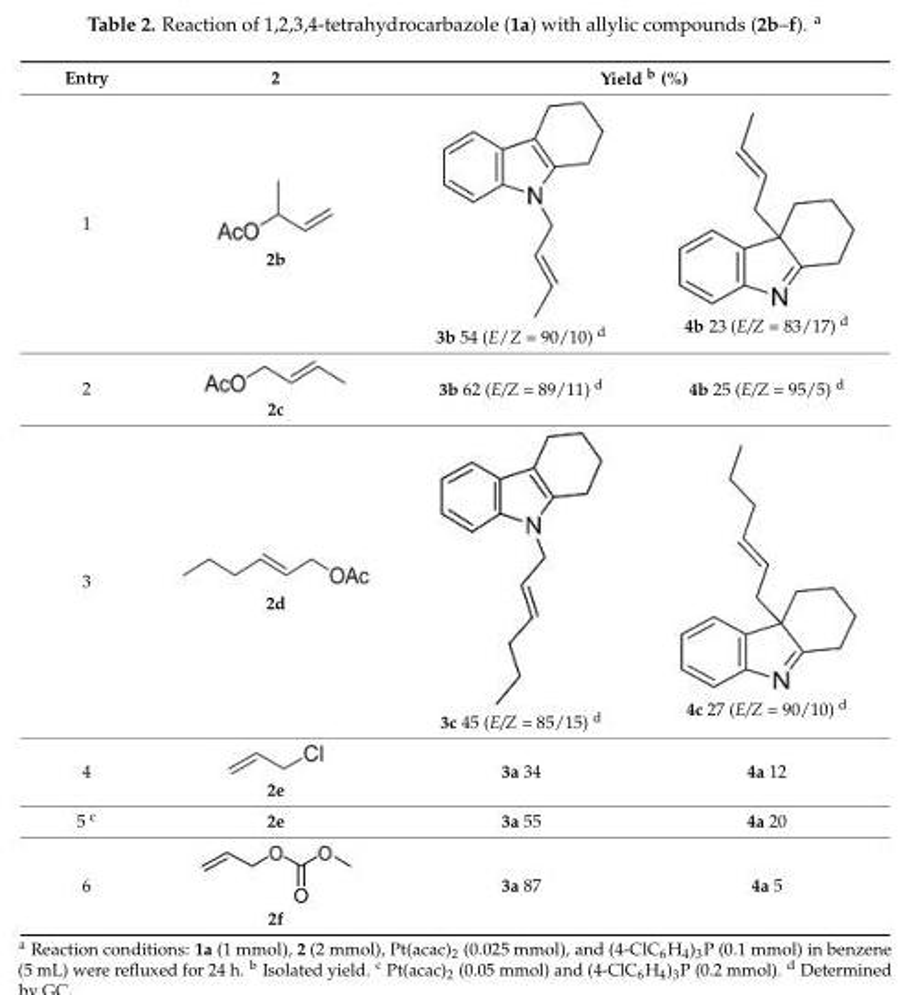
<table><thead><tr><td rowspan="2">Entry 1</td><td rowspan="2">2 2b</td><td colspan="2">Yield b (%)</td></tr><tr><td>3b 54 (E/Z = 90/10) d</td><td>4b 23 (E/Z = 83/17) d</td></tr></thead><tbody><tr><td>2</td><td>2c</td><td>3b 62 (E/Z = 89/11) d</td><td>4b 25 (E/Z = 95/5) d</td></tr><tr><td>3</td><td>2d</td><td>3c 45 (E/Z = 85/15) d</td><td>4c 27 (E/Z = 90/10) d</td></tr><tr><td>4</td><td>2e</td><td>3a 34</td><td>4a 12</td></tr><tr><td>5 c</td><td>2e</td><td>3a 55</td><td>4a 20</td></tr><tr><td>6</td><td>2f</td><td>3a 87</td><td>4a 5</td></tr></tbody></table>